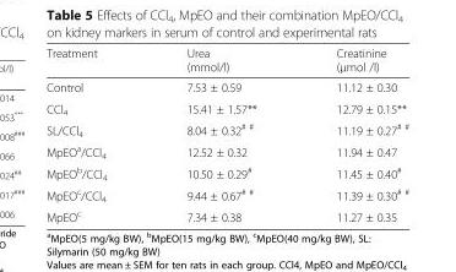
<table><thead><tr><td>Treatment</td><td>Urea (mmol/l)</td><td>Creatinine (μmol /l)</td></tr></thead><tbody><tr><td>Control</td><td>7.53 ± 0.59</td><td>11.12 ± 0.30</td></tr><tr><td>CCl<sub>4</sub></td><td>15.41 ± 1.57**</td><td>12.79 ± 0.15**</td></tr><tr><td>SL/CCl<sub>4</sub></td><td>8.04 ± 0.32<sup># #</sup></td><td>11.19 ± 0.27<sup># #</sup></td></tr><tr><td>MpEO<sup>a</sup>/CCl<sub>4</sub></td><td>12.52 ± 0.32</td><td>11.94 ± 0.47</td></tr><tr><td>MpEO<sup>b</sup>/CCl<sub>4</sub></td><td>10.50 ± 0.29<sup>#</sup></td><td>11.45 ± 0.40<sup>#</sup></td></tr><tr><td>MpEO<sup>c</sup>/CCl<sub>4</sub></td><td>9.44 ± 0.67<sup># #</sup></td><td>11.39 ± 0.30<sup># #</sup></td></tr><tr><td>MpEO<sup>c</sup></td><td>7.34 ± 0.38</td><td>11.27 ± 0.35</td></tr></tbody></table>